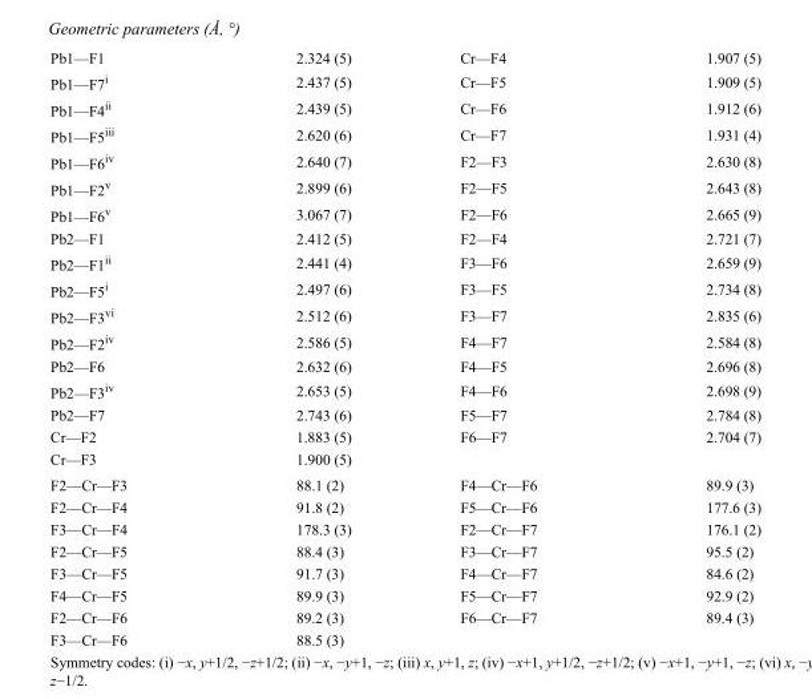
<table><tbody><tr><td>Pb1—F1</td><td>2.324 (5)</td><td>Cr—F4</td><td>1.907 (5)</td></tr><tr><td>Pb1—F7<sup>i</sup></td><td>2.437 (5)</td><td>Cr—F5</td><td>1.909 (5)</td></tr><tr><td>Pb1—F4<sup>ii</sup></td><td>2.439 (5)</td><td>Cr—F6</td><td>1.912 (6)</td></tr><tr><td>Pb1—F5<sup>iii</sup></td><td>2.620 (6)</td><td>Cr—F7</td><td>1.931 (4)</td></tr><tr><td>Pb1—F6<sup>iv</sup></td><td>2.640 (7)</td><td>F2—F3</td><td>2.630 (8)</td></tr><tr><td>Pb1—F2<sup>v</sup></td><td>2.899 (6)</td><td>F2—F5</td><td>2.643 (8)</td></tr><tr><td>Pb1—F6<sup>v</sup></td><td>3.067 (7)</td><td>F2—F6</td><td>2.665 (9)</td></tr><tr><td>Pb2—F1</td><td>2.412 (5)</td><td>F2—F4</td><td>2.721 (7)</td></tr><tr><td>Pb2—F1<sup>ii</sup></td><td>2.441 (4)</td><td>F3—F6</td><td>2.659 (9)</td></tr><tr><td>Pb2—F5<sup>i</sup></td><td>2.497 (6)</td><td>F3—F5</td><td>2.734 (8)</td></tr><tr><td>Pb2—F3<sup>vi</sup></td><td>2.512 (6)</td><td>F3—F7</td><td>2.835 (6)</td></tr><tr><td>Pb2—F2<sup>iv</sup></td><td>2.586 (5)</td><td>F4—F7</td><td>2.584 (8)</td></tr><tr><td>Pb2—F6</td><td>2.632 (6)</td><td>F4—F5</td><td>2.696 (8)</td></tr><tr><td>Pb2—F3<sup>iv</sup></td><td>2.653 (5)</td><td>F4—F6</td><td>2.698 (9)</td></tr><tr><td>Pb2—F7</td><td>2.743 (6)</td><td>F5—F7</td><td>2.784 (8)</td></tr><tr><td>Cr—F2</td><td>1.883 (5)</td><td>F6—F7</td><td>2.704 (7)</td></tr><tr><td>Cr—F3</td><td>1.900 (5)</td><td></td><td></td></tr><tr><td>F2—Cr—F3</td><td>88.1 (2)</td><td>F4—Cr—F6</td><td>89.9 (3)</td></tr><tr><td>F2—Cr—F4</td><td>91.8 (2)</td><td>F5—Cr—F6</td><td>177.6 (3)</td></tr><tr><td>F3—Cr—F4</td><td>178.3 (3)</td><td>F2—Cr—F7</td><td>176.1 (2)</td></tr><tr><td>F2—Cr—F5</td><td>88.4 (3)</td><td>F3—Cr—F7</td><td>95.5 (2)</td></tr><tr><td>F3—Cr—F5</td><td>91.7 (3)</td><td>F4—Cr—F7</td><td>84.6 (2)</td></tr><tr><td>F4—Cr—F5</td><td>89.9 (3)</td><td>F5—Cr—F7</td><td>92.9 (2)</td></tr><tr><td>F2—Cr—F6</td><td>89.2 (3)</td><td>F6—Cr—F7</td><td>89.4 (3)</td></tr><tr><td>F3—Cr—F6</td><td>88.5 (3)</td><td></td><td></td></tr></tbody></table>